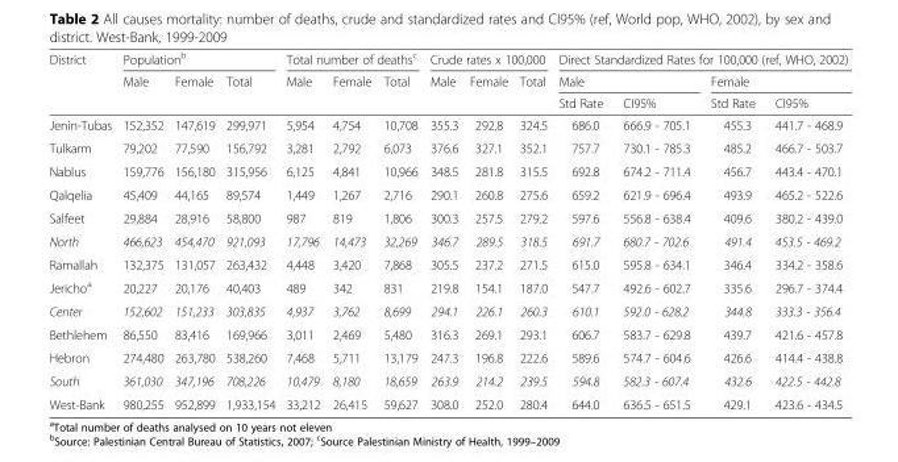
<table><thead><tr><td rowspan="3">District</td><td colspan="3">Population<sup>b</sup></td><td colspan="3">Total number of deaths<sup>c</sup></td><td colspan="3">Crude rates x 100,000</td><td colspan="4">Direct Standardized Rates for 100,000 (ref, WHO, 2002)</td></tr><tr><td rowspan="2">Male</td><td rowspan="2">Female</td><td rowspan="2">Total</td><td rowspan="2">Male</td><td rowspan="2">Female</td><td rowspan="2">Total</td><td rowspan="2">Male</td><td rowspan="2">Female</td><td rowspan="2">Total</td><td colspan="2">Male</td><td colspan="2">Female</td></tr><tr><td>Std Rate</td><td>CI95%</td><td>Std Rate</td><td>CI95%</td></tr></thead><tbody><tr><td>Jenin-Tubas</td><td>152,352</td><td>147,619</td><td>299,971</td><td>5,954</td><td>4,754</td><td>10,708</td><td>355.3</td><td>292.8</td><td>324.5</td><td>686.0</td><td>666.9 - 705.1</td><td>455.3</td><td>441.7 - 468.9</td></tr><tr><td>Tulkarm</td><td>79,202</td><td>77,590</td><td>156,792</td><td>3,281</td><td>2,792</td><td>6,073</td><td>376.6</td><td>327.1</td><td>352.1</td><td>757.7</td><td>730.1 - 785.3</td><td>485.2</td><td>466.7 - 503.7</td></tr><tr><td>Nablus</td><td>159,776</td><td>156,180</td><td>315,956</td><td>6,125</td><td>4,841</td><td>10,966</td><td>348.5</td><td>281.8</td><td>315.5</td><td>692.8</td><td>674.2 - 711.4</td><td>456.7</td><td>443.4 - 470.1</td></tr><tr><td>Qalqelia</td><td>45,409</td><td>44,165</td><td>89,574</td><td>1,449</td><td>1,267</td><td>2,716</td><td>290.1</td><td>260.8</td><td>275.6</td><td>659.2</td><td>621.9 - 696.4</td><td>493.9</td><td>465.2 - 522.6</td></tr><tr><td>Salfeet</td><td>29,884</td><td>28,916</td><td>58,800</td><td>987</td><td>819</td><td>1,806</td><td>300.3</td><td>257.5</td><td>279.2</td><td>597.6</td><td>556.8 - 638.4</td><td>409.6</td><td>380.2 - 439.0</td></tr><tr><td>North</td><td>466,623</td><td>454,470</td><td>921,093</td><td>17,796</td><td>14,473</td><td>32,269</td><td>346.7</td><td>289.5</td><td>318.5</td><td>691.7</td><td>680.7 - 702.6</td><td>491.4</td><td>453.5 - 469.2</td></tr><tr><td>Ramallah</td><td>132,375</td><td>131,057</td><td>263,432</td><td>4,448</td><td>3,420</td><td>7,868</td><td>305.5</td><td>237.2</td><td>271.5</td><td>615.0</td><td>595.8 - 634.1</td><td>346.4</td><td>334.2 - 358.6</td></tr><tr><td>Jericho<sup>a</sup></td><td>20,227</td><td>20,176</td><td>40,403</td><td>489</td><td>342</td><td>831</td><td>219.8</td><td>154.1</td><td>187.0</td><td>547.7</td><td>492.6 - 602.7</td><td>335.6</td><td>296.7 - 374.4</td></tr><tr><td>Center</td><td>152,602</td><td>151,233</td><td>303,835</td><td>4,937</td><td>3,762</td><td>8,699</td><td>294.1</td><td>226.1</td><td>260.3</td><td>610.1</td><td>592.0 - 628.2</td><td>344.8</td><td>333.3 - 356.4</td></tr><tr><td>Bethlehem</td><td>86,550</td><td>83,416</td><td>169,966</td><td>3,011</td><td>2,469</td><td>5,480</td><td>316.3</td><td>269.1</td><td>293.1</td><td>606.7</td><td>583.7 - 629.8</td><td>439.7</td><td>421.6 - 457.8</td></tr><tr><td>Hebron</td><td>274,480</td><td>263,780</td><td>538,260</td><td>7,468</td><td>5,711</td><td>13,179</td><td>247.3</td><td>196.8</td><td>222.6</td><td>589.6</td><td>574.7 - 604.6</td><td>426.6</td><td>414.4 - 438.8</td></tr><tr><td>South</td><td>361,030</td><td>347,196</td><td>708,226</td><td>10,479</td><td>8,180</td><td>18,659</td><td>263.9</td><td>214.2</td><td>239.5</td><td>594.8</td><td>582.3 - 607.4</td><td>432.6</td><td>422.5 - 442.8</td></tr><tr><td>West-Bank</td><td>980,255</td><td>952,899</td><td>1,933,154</td><td>33,212</td><td>26,415</td><td>59,627</td><td>308.0</td><td>252.0</td><td>280.4</td><td>644.0</td><td>636.5 - 651.5</td><td>429.1</td><td>423.6 - 434.5</td></tr></tbody></table>